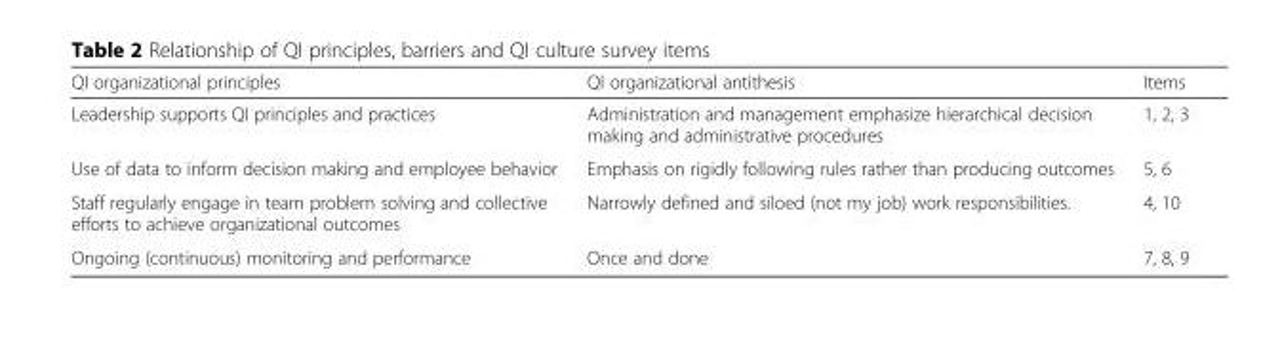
<table><thead><tr><td>QI organizational principles</td><td>QI organizational antithesis</td><td>Items</td></tr></thead><tbody><tr><td>Leadership supports QI principles and practices</td><td>Administration and management emphasize hierarchical decision making and administrative procedures</td><td>1, 2, 3</td></tr><tr><td>Use of data to inform decision making and employee behavior</td><td>Emphasis on rigidly following rules rather than producing outcomes</td><td>5, 6</td></tr><tr><td>Staff regularly engage in team problem solving and collective efforts to achieve organizational outcomes</td><td>Narrowly defined and siloed (not my job) work responsibilities.</td><td>4, 10</td></tr><tr><td>Ongoing (continuous) monitoring and performance</td><td>Once and done</td><td>7, 8, 9</td></tr></tbody></table>